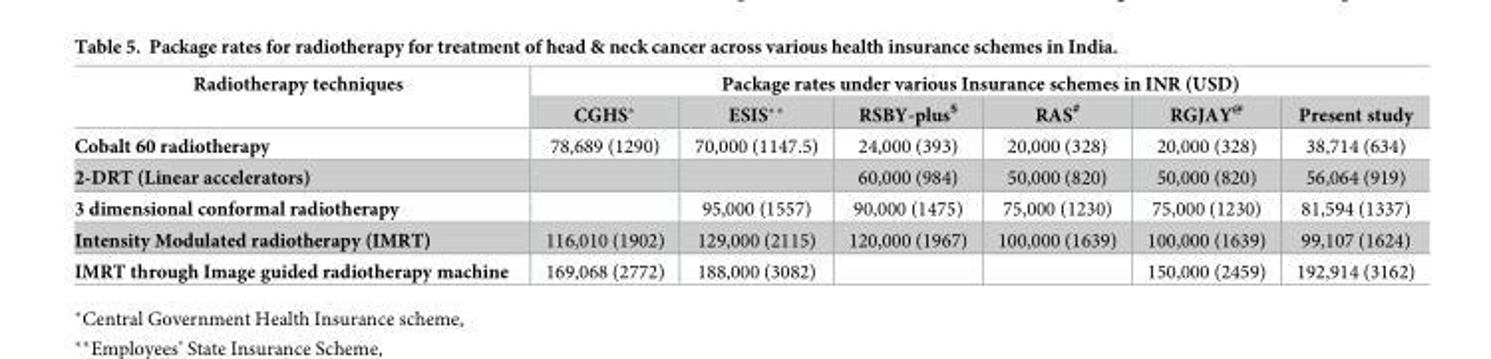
<table><thead><tr><td rowspan="2">Radiotherapy techniques</td><td colspan="6">Package rates under various Insurance schemes in INR (USD)</td></tr><tr><td>CGHS*</td><td>ESIS**</td><td>RSBY-plus<sup>$</sup></td><td>RAS<sup>#</sup></td><td>RGJAY<sup>@</sup></td><td>Present study</td></tr></thead><tbody><tr><td>Cobalt 60 radiotherapy</td><td>78,689 (1290)</td><td>70,000 (1147.5)</td><td>24,000 (393)</td><td>20,000 (328)</td><td>20,000 (328)</td><td>38,714 (634)</td></tr><tr><td>2-DRT (Linear accelerators)</td><td></td><td></td><td>60,000 (984)</td><td>50,000 (820)</td><td>50,000 (820)</td><td>56,064 (919)</td></tr><tr><td>3 dimensional conformal radiotherapy</td><td></td><td>95,000 (1557)</td><td>90,000 (1475)</td><td>75,000 (1230)</td><td>75,000 (1230)</td><td>81,594 (1337)</td></tr><tr><td>Intensity Modulated radiotherapy (IMRT)</td><td>116,010 (1902)</td><td>129,000 (2115)</td><td>120,000 (1967)</td><td>100,000 (1639)</td><td>100,000 (1639)</td><td>99,107 (1624)</td></tr><tr><td>IMRT through Image guided radiotherapy machine</td><td>169,068 (2772)</td><td>188,000 (3082)</td><td></td><td></td><td>150,000 (2459)</td><td>192,914 (3162)</td></tr></tbody></table>